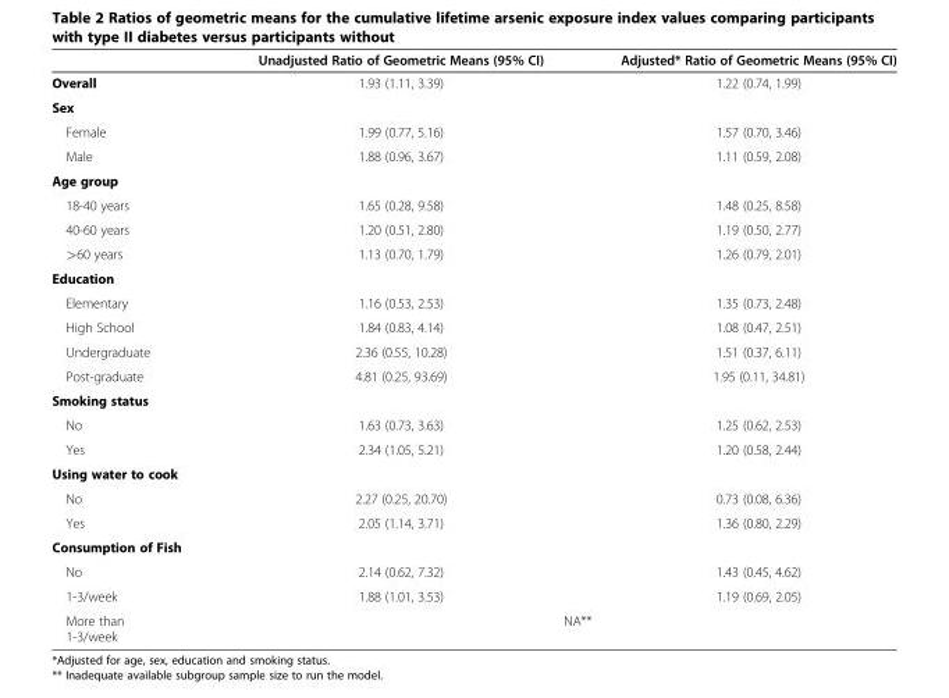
<table><thead><tr><td></td><td>Unadjusted Ratio of Geometric Means (95% CI)</td><td>Adjusted* Ratio of Geometric Means (95% CI)</td></tr></thead><tbody><tr><td>Overall</td><td>1.93 (1.11, 3.39)</td><td>1.22 (0.74, 1.99)</td></tr><tr><td colspan="3">Sex</td></tr><tr><td>Female</td><td>1.99 (0.77, 5.16)</td><td>1.57 (0.70, 3.46)</td></tr><tr><td>Male</td><td>1.88 (0.96, 3.67)</td><td>1.11 (0.59, 2.08)</td></tr><tr><td colspan="3">Age group</td></tr><tr><td>18-40 years</td><td>1.65 (0.28, 9.58)</td><td>1.48 (0.25, 8.58)</td></tr><tr><td>40-60 years</td><td>1.20 (0.51, 2.80)</td><td>1.19 (0.50, 2.77)</td></tr><tr><td>&gt;60 years</td><td>1.13 (0.70, 1.79)</td><td>1.26 (0.79, 2.01)</td></tr><tr><td colspan="3">Education</td></tr><tr><td>Elementary</td><td>1.16 (0.53, 2.53)</td><td>1.35 (0.73, 2.48)</td></tr><tr><td>High School</td><td>1.84 (0.83, 4.14)</td><td>1.08 (0.47, 2.51)</td></tr><tr><td>Undergraduate</td><td>2.36 (0.55, 10.28)</td><td>1.51 (0.37, 6.11)</td></tr><tr><td>Post-graduate</td><td>4.81 (0.25, 93.69)</td><td>1.95 (0.11, 34.81)</td></tr><tr><td colspan="3">Smoking status</td></tr><tr><td>No</td><td>1.63 (0.73, 3.63)</td><td>1.25 (0.62, 2.53)</td></tr><tr><td>Yes</td><td>2.34 (1.05, 5.21)</td><td>1.20 (0.58, 2.44)</td></tr><tr><td colspan="3">Using water to cook</td></tr><tr><td>No</td><td>2.27 (0.25, 20.70)</td><td>0.73 (0.08, 6.36)</td></tr><tr><td>Yes</td><td>2.05 (1.14, 3.71)</td><td>1.36 (0.80, 2.29)</td></tr><tr><td colspan="3">Consumption of Fish</td></tr><tr><td>No</td><td>2.14 (0.62, 7.32)</td><td>1.43 (0.45, 4.62)</td></tr><tr><td>1-3/week</td><td>1.88 (1.01, 3.53)</td><td>1.19 (0.69, 2.05)</td></tr><tr><td>More than 1-3/week</td><td colspan="2">NA**</td></tr></tbody></table>